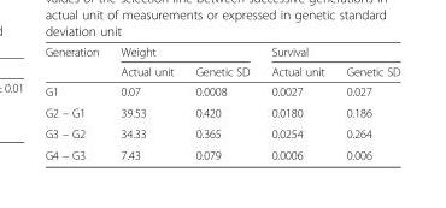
<table><thead><tr><td rowspan="2">Generation</td><td colspan="2">Weight</td><td colspan="2">Survival</td></tr><tr><td>Actual unit</td><td>Genetic SD</td><td>Actual unit</td><td>Genetic SD</td></tr></thead><tbody><tr><td>G1</td><td>0.07</td><td>0.0008</td><td>0.0027</td><td>0.027</td></tr><tr><td>G2 – G1</td><td>39.53</td><td>0.420</td><td>0.0180</td><td>0.186</td></tr><tr><td>G3 – G2</td><td>34.33</td><td>0.365</td><td>0.0254</td><td>0.264</td></tr><tr><td>G4 – G3</td><td>7.43</td><td>0.079</td><td>0.0006</td><td>0.006</td></tr></tbody></table>